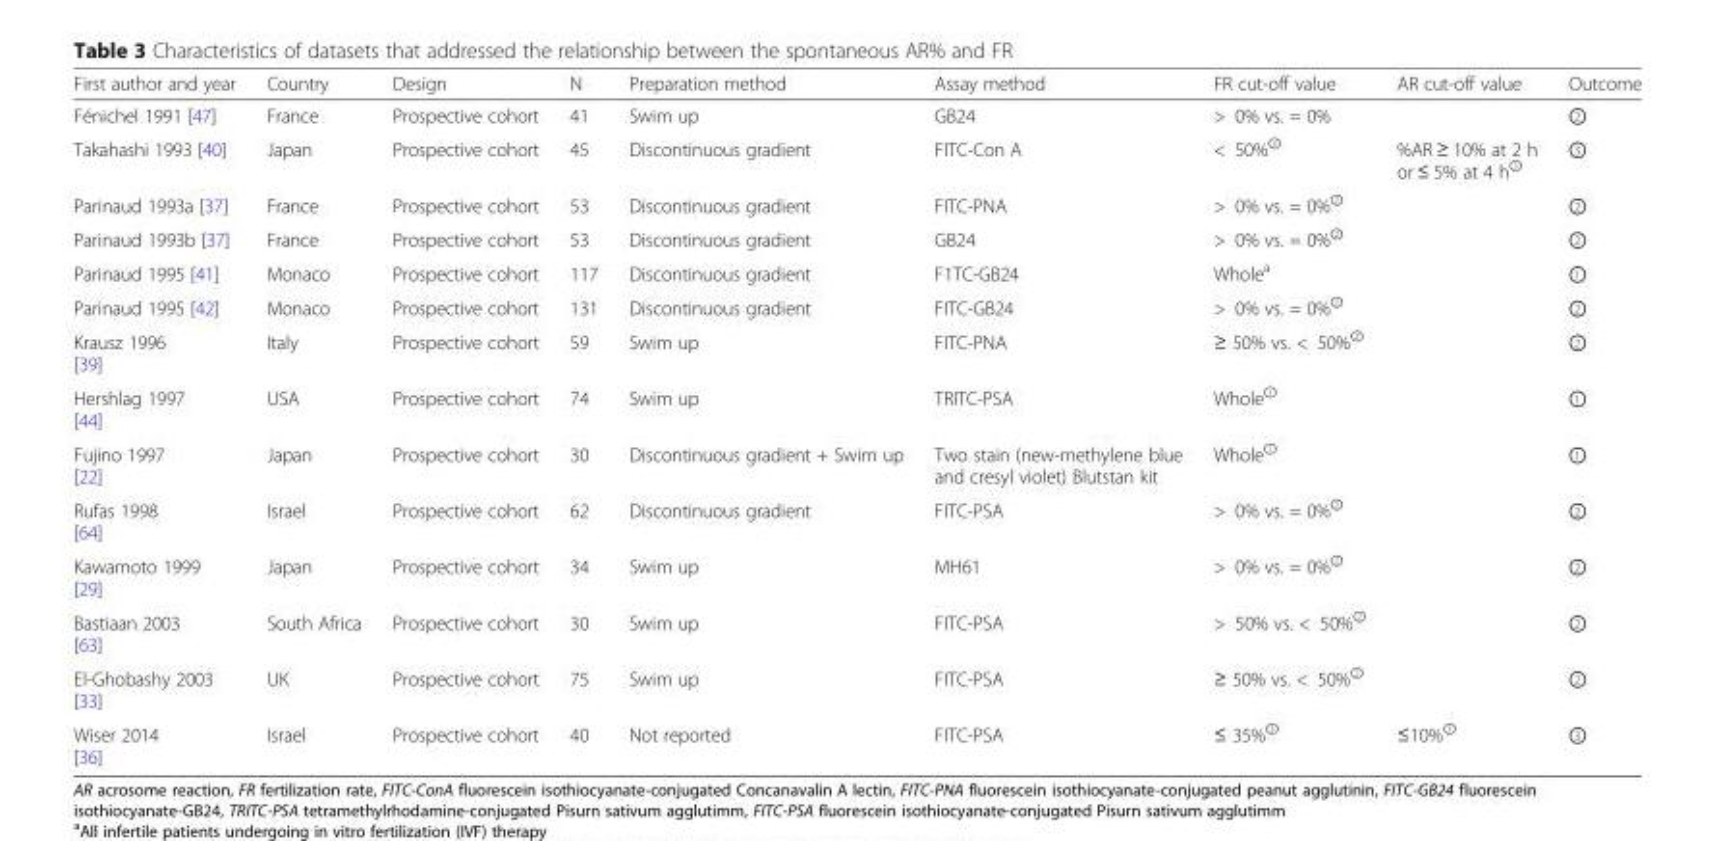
<table><thead><tr><td>First author and year</td><td>Country</td><td>Design</td><td>N</td><td>Preparation method</td><td>Assay method</td><td>FR cut-off value</td><td>AR cut-off value</td><td>Outcome</td></tr></thead><tbody><tr><td>Fénichel 1991 [47]</td><td>France</td><td>Prospective cohort</td><td>41</td><td>Swim up</td><td>GB24</td><td>&gt; 0% vs. = 0%</td><td></td><td>②</td></tr><tr><td>Takahashi 1993 [40]</td><td>Japan</td><td>Prospective cohort</td><td>45</td><td>Discontinuous gradient</td><td>FITC-Con A</td><td>&lt; 50%<sup>③</sup></td><td>%AR ≥ 10% at 2 h or ≤ 5% at 4 h<sup>③</sup></td><td>③</td></tr><tr><td>Parinaud 1993a [37]</td><td>France</td><td>Prospective cohort</td><td>53</td><td>Discontinuous gradient</td><td>FITC-PNA</td><td>&gt; 0% vs. = 0%<sup>②</sup></td><td></td><td>②</td></tr><tr><td>Parinaud 1993b [37]</td><td>France</td><td>Prospective cohort</td><td>53</td><td>Discontinuous gradient</td><td>GB24</td><td>&gt; 0% vs. = 0%<sup>②</sup></td><td></td><td>②</td></tr><tr><td>Parinaud 1995 [41]</td><td>Monaco</td><td>Prospective cohort</td><td>117</td><td>Discontinuous gradient</td><td>F1TC-GB24</td><td>Whole<sup>a</sup></td><td></td><td>①</td></tr><tr><td>Parinaud 1995 [42]</td><td>Monaco</td><td>Prospective cohort</td><td>131</td><td>Discontinuous gradient</td><td>FITC-GB24</td><td>&gt; 0% vs. = 0%<sup>②</sup></td><td></td><td>②</td></tr><tr><td>Krausz 1996 [39]</td><td>Italy</td><td>Prospective cohort</td><td>59</td><td>Swim up</td><td>FITC-PNA</td><td>≥ 50% vs. &lt; 50%<sup>②</sup></td><td></td><td>②</td></tr><tr><td>Hershlag 1997 [44]</td><td>USA</td><td>Prospective cohort</td><td>74</td><td>Swim up</td><td>TRITC-PSA</td><td>Whole<sup>①</sup></td><td></td><td>①</td></tr><tr><td>Fujino 1997 [22]</td><td>Japan</td><td>Prospective cohort</td><td>30</td><td>Discontinuous gradient + Swim up</td><td>Two stain (new-methylene blue and cresyl violet) Blutstan kit</td><td>Whole<sup>①</sup></td><td></td><td>①</td></tr><tr><td>Rufas 1998 [64]</td><td>Israel</td><td>Prospective cohort</td><td>62</td><td>Discontinuous gradient</td><td>FITC-PSA</td><td>&gt; 0% vs. = 0%<sup>②</sup></td><td></td><td>②</td></tr><tr><td>Kawamoto 1999 [29]</td><td>Japan</td><td>Prospective cohort</td><td>34</td><td>Swim up</td><td>MH61</td><td>&gt; 0% vs. = 0%<sup>②</sup></td><td></td><td>②</td></tr><tr><td>Bastiaan 2003 [63]</td><td>South Africa</td><td>Prospective cohort</td><td>30</td><td>Swim up</td><td>FITC-PSA</td><td>&gt; 50% vs. &lt; 50%<sup>②</sup></td><td></td><td>②</td></tr><tr><td>El-Ghobashy 2003 [33]</td><td>UK</td><td>Prospective cohort</td><td>75</td><td>Swim up</td><td>FITC-PSA</td><td>≥ 50% vs. &lt; 50%<sup>②</sup></td><td></td><td>②</td></tr><tr><td>Wiser 2014 [36]</td><td>Israel</td><td>Prospective cohort</td><td>40</td><td>Not reported</td><td>FITC-PSA</td><td>≤ 35%<sup>③</sup></td><td>≤10%<sup>③</sup></td><td>③</td></tr></tbody></table>